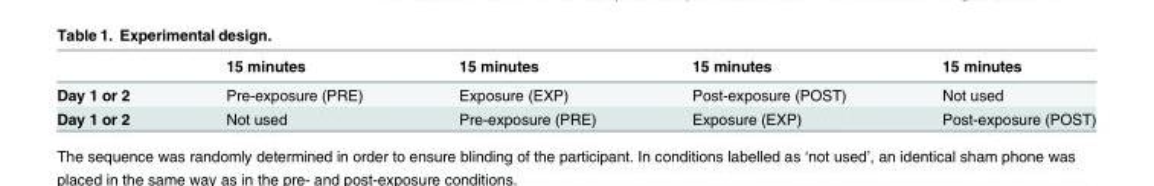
<table><thead><tr><td></td><td>15 minutes</td><td>15 minutes</td><td>15 minutes</td><td>15 minutes</td></tr></thead><tbody><tr><td>Day 1 or 2</td><td>Pre-exposure (PRE)</td><td>Exposure (EXP)</td><td>Post-exposure (POST)</td><td>Not used</td></tr><tr><td>Day 1 or 2</td><td>Not used</td><td>Pre-exposure (PRE)</td><td>Exposure (EXP)</td><td>Post-exposure (POST)</td></tr></tbody></table>